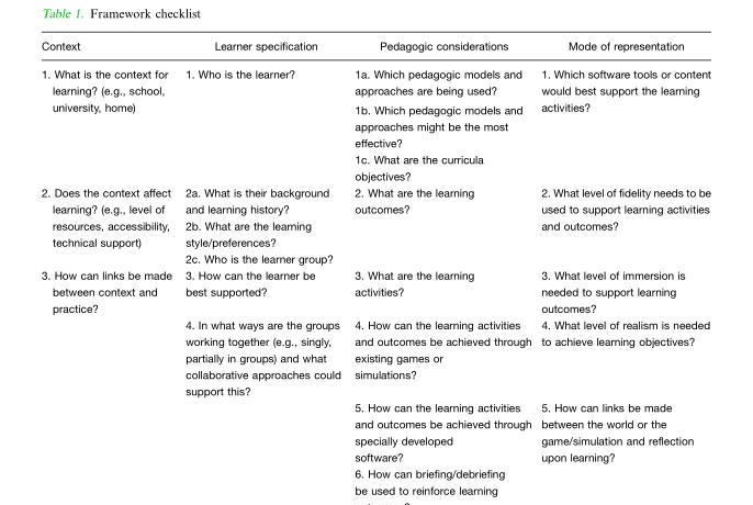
<table><thead><tr><td>Context</td><td>Learner specification</td><td>Pedagogic considerations</td><td>Mode of representation</td></tr></thead><tbody><tr><td>1. What is the context for learning? (e.g., school, university, home)</td><td>1. Who is the learner?</td><td>1a. Which pedagogic models and approaches are being used? 1b. Which pedagogic models and approaches might be the most effective? 1c. What are the curricula objectives?</td><td>1. Which software tools or content would best support the learning activities?</td></tr><tr><td>2. Does the context affect learning? (e.g., level of resources, accessibility, technical support)</td><td>2a. What is their background and learning history? 2b. What are the learning style/preferences? 2c. Who is the learner group?</td><td>2. What are the learning outcomes?</td><td>2. What level of fidelity needs to be used to support learning activities and outcomes?</td></tr><tr><td rowspan="3">3. How can links be made between context and practice?</td><td>3. How can the learner be best supported?</td><td>3. What are the learning activities?</td><td>3. What level of immersion is needed to support learning outcomes?</td></tr><tr><td>4. In what ways are the groups working together (e.g., singly, partially in groups) and what collaborative approaches could support this?</td><td>4. How can the learning activities and outcomes be achieved through existing games or simulations?</td><td>4. What level of realism is needed to achieve learning objectives?</td></tr><tr><td></td><td>5. How can the learning activities and outcomes be achieved through specially developed software?</td><td>5. How can links be made between the world or the game/simulation and reflection upon learning?</td></tr></tbody></table>